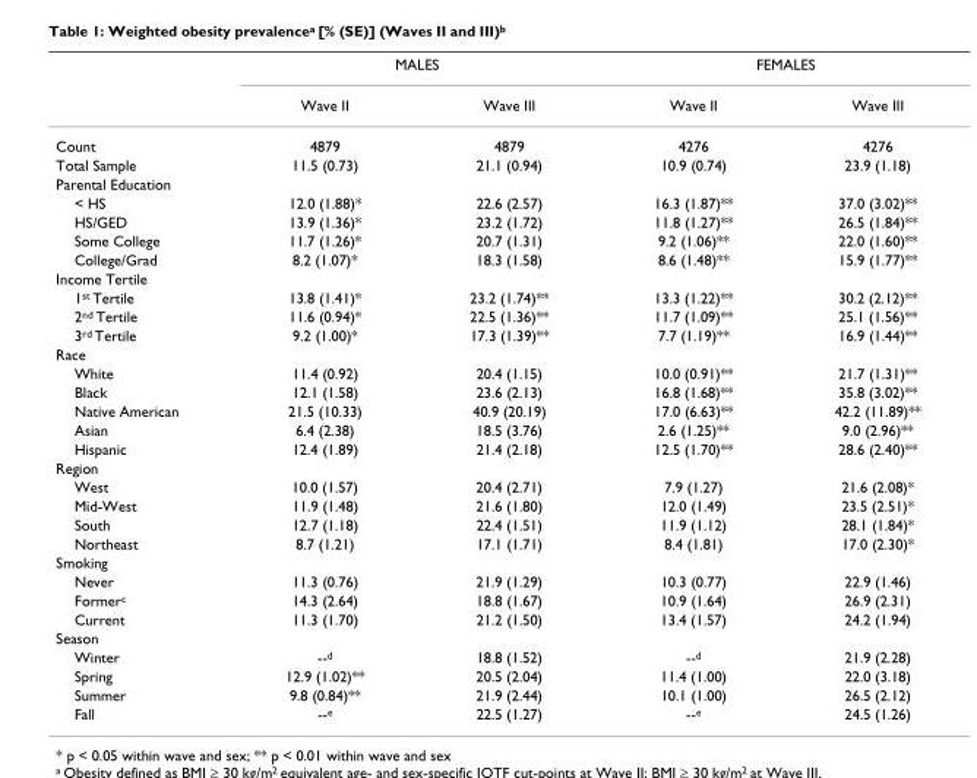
<table><thead><tr><td rowspan="2"></td><td colspan="2">MALES</td><td colspan="2">FEMALES</td></tr><tr><td>Wave II</td><td>Wave III</td><td>Wave II</td><td>Wave III</td></tr></thead><tbody><tr><td>Count</td><td>4879</td><td>4879</td><td>4276</td><td>4276</td></tr><tr><td>Total Sample</td><td>11.5 (0.73)</td><td>21.1 (0.94)</td><td>10.9 (0.74)</td><td>23.9 (1.18)</td></tr><tr><td colspan="5">Parental Education</td></tr><tr><td>&lt; HS</td><td>12.0 (1.88)*</td><td>22.6 (2.57)</td><td>16.3 (1.87)**</td><td>37.0 (3.02)**</td></tr><tr><td>HS/GED</td><td>13.9 (1.36)*</td><td>23.2 (1.72)</td><td>11.8 (1.27)**</td><td>26.5 (1.84)**</td></tr><tr><td>Some College</td><td>11.7 (1.26)*</td><td>20.7 (1.31)</td><td>9.2 (1.06)**</td><td>22.0 (1.60)**</td></tr><tr><td>College/Grad</td><td>8.2 (1.07)*</td><td>18.3 (1.58)</td><td>8.6 (1.48)**</td><td>15.9 (1.77)**</td></tr><tr><td colspan="5">Income Tertile</td></tr><tr><td>1<sup>st</sup> Tertile</td><td>13.8 (1.41)*</td><td>23.2 (1.74)**</td><td>13.3 (1.22)**</td><td>30.2 (2.12)**</td></tr><tr><td>2<sup>nd</sup> Tertile</td><td>11.6 (0.94)*</td><td>22.5 (1.36)**</td><td>11.7 (1.09)**</td><td>25.1 (1.56)**</td></tr><tr><td>3<sup>rd</sup> Tertile</td><td>9.2 (1.00)*</td><td>17.3 (1.39)**</td><td>7.7 (1.19)**</td><td>16.9 (1.44)**</td></tr><tr><td colspan="5">Race</td></tr><tr><td>White</td><td>11.4 (0.92)</td><td>20.4 (1.15)</td><td>10.0 (0.91)**</td><td>21.7 (1.31)**</td></tr><tr><td>Black</td><td>12.1 (1.58)</td><td>23.6 (2.13)</td><td>16.8 (1.68)**</td><td>35.8 (3.02)**</td></tr><tr><td>Native American</td><td>21.5 (10.33)</td><td>40.9 (20.19)</td><td>17.0 (6.63)**</td><td>42.2 (11.89)**</td></tr><tr><td>Asian</td><td>6.4 (2.38)</td><td>18.5 (3.76)</td><td>2.6 (1.25)**</td><td>9.0 (2.96)**</td></tr><tr><td>Hispanic</td><td>12.4 (1.89)</td><td>21.4 (2.18)</td><td>12.5 (1.70)**</td><td>28.6 (2.40)**</td></tr><tr><td colspan="5">Region</td></tr><tr><td>West</td><td>10.0 (1.57)</td><td>20.4 (2.71)</td><td>7.9 (1.27)</td><td>21.6 (2.08)*</td></tr><tr><td>Mid-West</td><td>11.9 (1.48)</td><td>21.6 (1.80)</td><td>12.0 (1.49)</td><td>23.5 (2.51)*</td></tr><tr><td>South</td><td>12.7 (1.18)</td><td>22.4 (1.51)</td><td>11.9 (1.12)</td><td>28.1 (1.84)*</td></tr><tr><td>Northeast</td><td>8.7 (1.21)</td><td>17.1 (1.71)</td><td>8.4 (1.81)</td><td>17.0 (2.30)*</td></tr><tr><td colspan="5">Smoking</td></tr><tr><td>Never</td><td>11.3 (0.76)</td><td>21.9 (1.29)</td><td>10.3 (0.77)</td><td>22.9 (1.46)</td></tr><tr><td>Former<sup>c</sup></td><td>14.3 (2.64)</td><td>18.8 (1.67)</td><td>10.9 (1.64)</td><td>26.9 (2.31)</td></tr><tr><td>Current</td><td>11.3 (1.70)</td><td>21.2 (1.50)</td><td>13.4 (1.57)</td><td>24.2 (1.94)</td></tr><tr><td colspan="5">Season</td></tr><tr><td>Winter</td><td>--<sup>d</sup></td><td>18.8 (1.52)</td><td>--<sup>d</sup></td><td>21.9 (2.28)</td></tr><tr><td>Spring</td><td>12.9 (1.02)**</td><td>20.5 (2.04)</td><td>11.4 (1.00)</td><td>22.0 (3.18)</td></tr><tr><td>Summer</td><td>9.8 (0.84)**</td><td>21.9 (2.44)</td><td>10.1 (1.00)</td><td>26.5 (2.12)</td></tr><tr><td>Fall</td><td>--<sup>e</sup></td><td>22.5 (1.27)</td><td>--<sup>e</sup></td><td>24.5 (1.26)</td></tr></tbody></table>